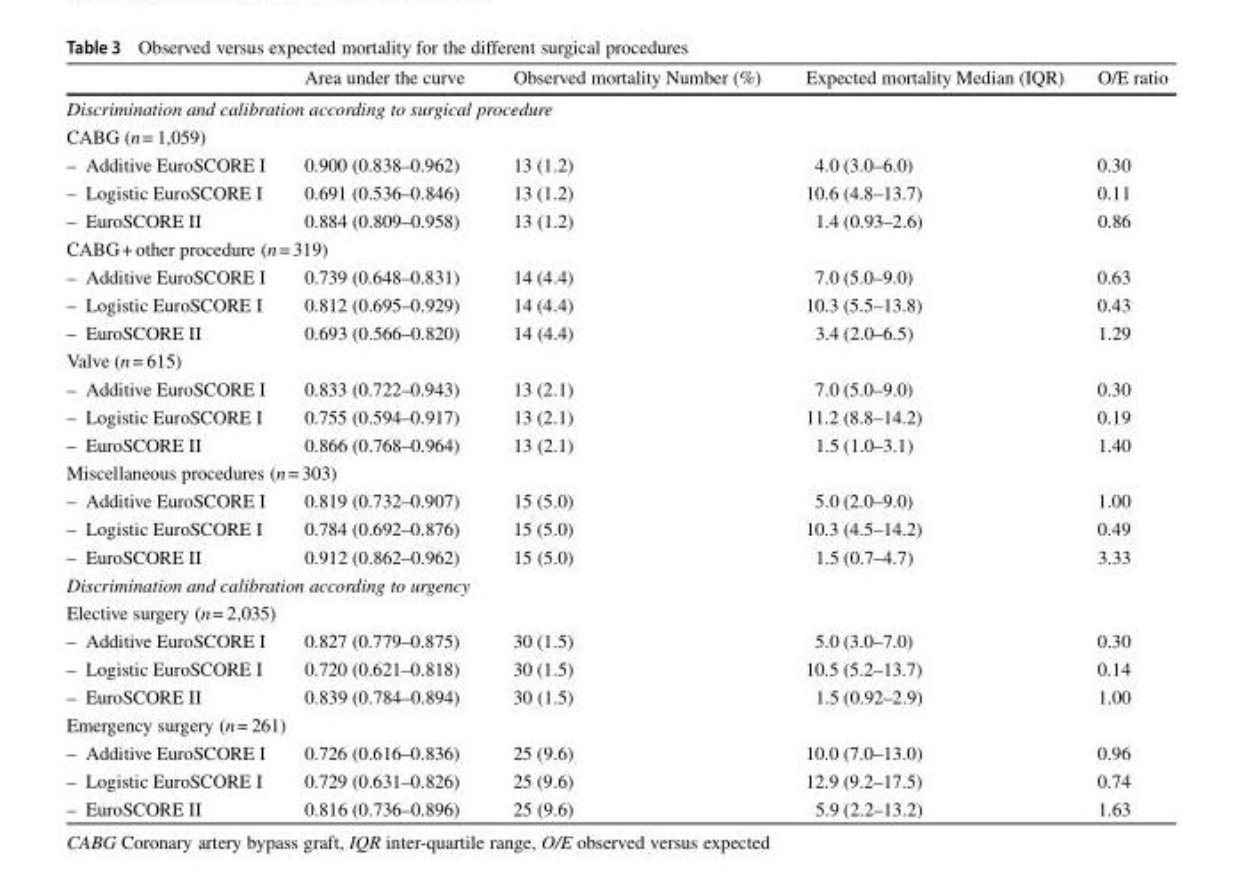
<table><thead><tr><td></td><td>Area under the curve</td><td>Observed mortality Number (%)</td><td>Expected mortality Median (IQR)</td><td>O/E ratio</td></tr></thead><tbody><tr><td colspan="5">Discrimination and calibration according to surgical procedure</td></tr><tr><td colspan="5">CABG (n= 1,059)</td></tr><tr><td>– Additive EuroSCORE I</td><td>0.900 (0.838–0.962)</td><td>13 (1.2)</td><td>4.0 (3.0–6.0)</td><td>0.30</td></tr><tr><td>– Logistic EuroSCORE I</td><td>0.691 (0.536–0.846)</td><td>13 (1.2)</td><td>10.6 (4.8–13.7)</td><td>0.11</td></tr><tr><td>– EuroSCORE II</td><td>0.884 (0.809–0.958)</td><td>13 (1.2)</td><td>1.4 (0.93–2.6)</td><td>0.86</td></tr><tr><td colspan="5">CABG+ other procedure (n= 319)</td></tr><tr><td>– Additive EuroSCORE I</td><td>0.739 (0.648–0.831)</td><td>14 (4.4)</td><td>7.0 (5.0–9.0)</td><td>0.63</td></tr><tr><td>– Logistic EuroSCORE I</td><td>0.812 (0.695–0.929)</td><td>14 (4.4)</td><td>10.3 (5.5–13.8)</td><td>0.43</td></tr><tr><td>– EuroSCORE II</td><td>0.693 (0.566–0.820)</td><td>14 (4.4)</td><td>3.4 (2.0–6.5)</td><td>1.29</td></tr><tr><td colspan="5">Valve (n= 615)</td></tr><tr><td>– Additive EuroSCORE I</td><td>0.833 (0.722–0.943)</td><td>13 (2.1)</td><td>7.0 (5.0–9.0)</td><td>0.30</td></tr><tr><td>– Logistic EuroSCORE I</td><td>0.755 (0.594–0.917)</td><td>13 (2.1)</td><td>11.2 (8.8–14.2)</td><td>0.19</td></tr><tr><td>– EuroSCORE II</td><td>0.866 (0.768–0.964)</td><td>13 (2.1)</td><td>1.5 (1.0–3.1)</td><td>1.40</td></tr><tr><td colspan="5">Miscellaneous procedures (n= 303)</td></tr><tr><td>– Additive EuroSCORE I</td><td>0.819 (0.732–0.907)</td><td>15 (5.0)</td><td>5.0 (2.0–9.0)</td><td>1.00</td></tr><tr><td>– Logistic EuroSCORE I</td><td>0.784 (0.692–0.876)</td><td>15 (5.0)</td><td>10.3 (4.5–14.2)</td><td>0.49</td></tr><tr><td>– EuroSCORE II</td><td>0.912 (0.862–0.962)</td><td>15 (5.0)</td><td>1.5 (0.7–4.7)</td><td>3.33</td></tr><tr><td colspan="5">Discrimination and calibration according to urgency</td></tr><tr><td colspan="5">Elective surgery (n= 2,035)</td></tr><tr><td>– Additive EuroSCORE I</td><td>0.827 (0.779–0.875)</td><td>30 (1.5)</td><td>5.0 (3.0–7.0)</td><td>0.30</td></tr><tr><td>– Logistic EuroSCORE I</td><td>0.720 (0.621–0.818)</td><td>30 (1.5)</td><td>10.5 (5.2–13.7)</td><td>0.14</td></tr><tr><td>– EuroSCORE II</td><td>0.839 (0.784–0.894)</td><td>30 (1.5)</td><td>1.5 (0.92–2.9)</td><td>1.00</td></tr><tr><td colspan="5">Emergency surgery (n= 261)</td></tr><tr><td>– Additive EuroSCORE I</td><td>0.726 (0.616–0.836)</td><td>25 (9.6)</td><td>10.0 (7.0–13.0)</td><td>0.96</td></tr><tr><td>– Logistic EuroSCORE I</td><td>0.729 (0.631–0.826)</td><td>25 (9.6)</td><td>12.9 (9.2–17.5)</td><td>0.74</td></tr><tr><td>– EuroSCORE II</td><td>0.816 (0.736–0.896)</td><td>25 (9.6)</td><td>5.9 (2.2–13.2)</td><td>1.63</td></tr></tbody></table>